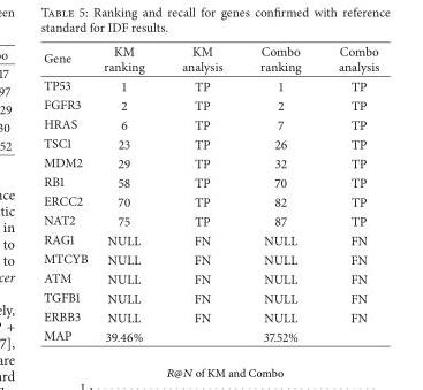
<table><thead><tr><td>Gene</td><td>KM ranking</td><td>KM analysis</td><td>Combo ranking</td><td>Combo analysis</td></tr></thead><tbody><tr><td>TP53</td><td>1</td><td>TP</td><td>1</td><td>TP</td></tr><tr><td>FGFR3</td><td>2</td><td>TP</td><td>2</td><td>TP</td></tr><tr><td>HRAS</td><td>6</td><td>TP</td><td>7</td><td>TP</td></tr><tr><td>TSC1</td><td>23</td><td>TP</td><td>26</td><td>TP</td></tr><tr><td>MDM2</td><td>29</td><td>TP</td><td>32</td><td>TP</td></tr><tr><td>RB1</td><td>58</td><td>TP</td><td>70</td><td>TP</td></tr><tr><td>ERCC2</td><td>70</td><td>TP</td><td>82</td><td>TP</td></tr><tr><td>NAT2</td><td>75</td><td>TP</td><td>87</td><td>TP</td></tr><tr><td>RAG1</td><td>NULL</td><td>FN</td><td>NULL</td><td>FN</td></tr><tr><td>MTCYB</td><td>NULL</td><td>FN</td><td>NULL</td><td>FN</td></tr><tr><td>ATM</td><td>NULL</td><td>FN</td><td>NULL</td><td>FN</td></tr><tr><td>TGFB1</td><td>NULL</td><td>FN</td><td>NULL</td><td>FN</td></tr><tr><td>ERBB3</td><td>NULL</td><td>FN</td><td>NULL</td><td>FN</td></tr><tr><td>MAP</td><td>39.46%</td><td></td><td>37.52%</td><td></td></tr></tbody></table>